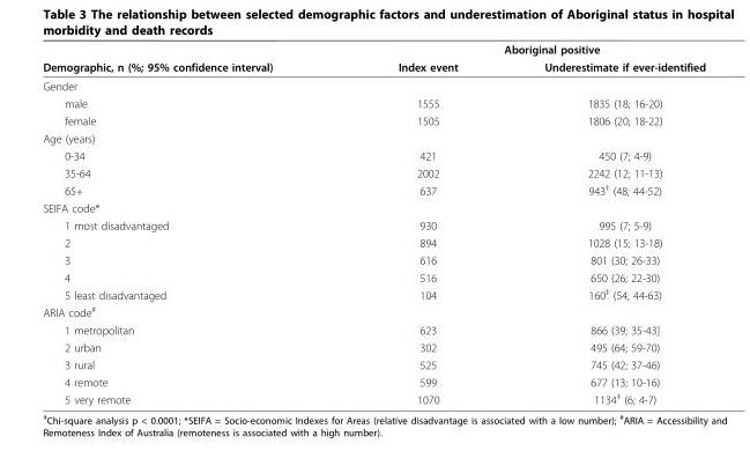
<table><thead><tr><td rowspan="2">Demographic, n (%; 95% confidence interval)</td><td colspan="2">Aboriginal positive</td></tr><tr><td>Index event</td><td>Underestimate if ever-identified</td></tr></thead><tbody><tr><td colspan="3">Gender</td></tr><tr><td>male</td><td>1555</td><td>1835 (18; 16-20)</td></tr><tr><td>female</td><td>1505</td><td>1806 (20; 18-22)</td></tr><tr><td colspan="3">Age (years)</td></tr><tr><td>0-34</td><td>421</td><td>450 (7; 4-9)</td></tr><tr><td>35-64</td><td>2002</td><td>2242 (12; 11-13)</td></tr><tr><td>65+</td><td>637</td><td>943<sup>‡</sup> (48; 44-52)</td></tr><tr><td colspan="3">SEIFA code*</td></tr><tr><td>1 most disadvantaged</td><td>930</td><td>995 (7; 5-9)</td></tr><tr><td>2</td><td>894</td><td>1028 (15; 13-18)</td></tr><tr><td>3</td><td>616</td><td>801 (30; 26-33)</td></tr><tr><td>4</td><td>516</td><td>650 (26; 22-30)</td></tr><tr><td>5 least disadvantaged</td><td>104</td><td>160<sup>‡</sup> (54; 44-63)</td></tr><tr><td colspan="3">ARIA code<sup>#</sup></td></tr><tr><td>1 metropolitan</td><td>623</td><td>866 (39; 35-43]</td></tr><tr><td>2 urban</td><td>302</td><td>495 (64; 59-70)</td></tr><tr><td>3 rural</td><td>525</td><td>745 (42; 37-46)</td></tr><tr><td>4 remote</td><td>599</td><td>677 (13; 10-16)</td></tr><tr><td>5 very remote</td><td>1070</td><td>1134<sup>‡</sup> (6; 4-7)</td></tr></tbody></table>